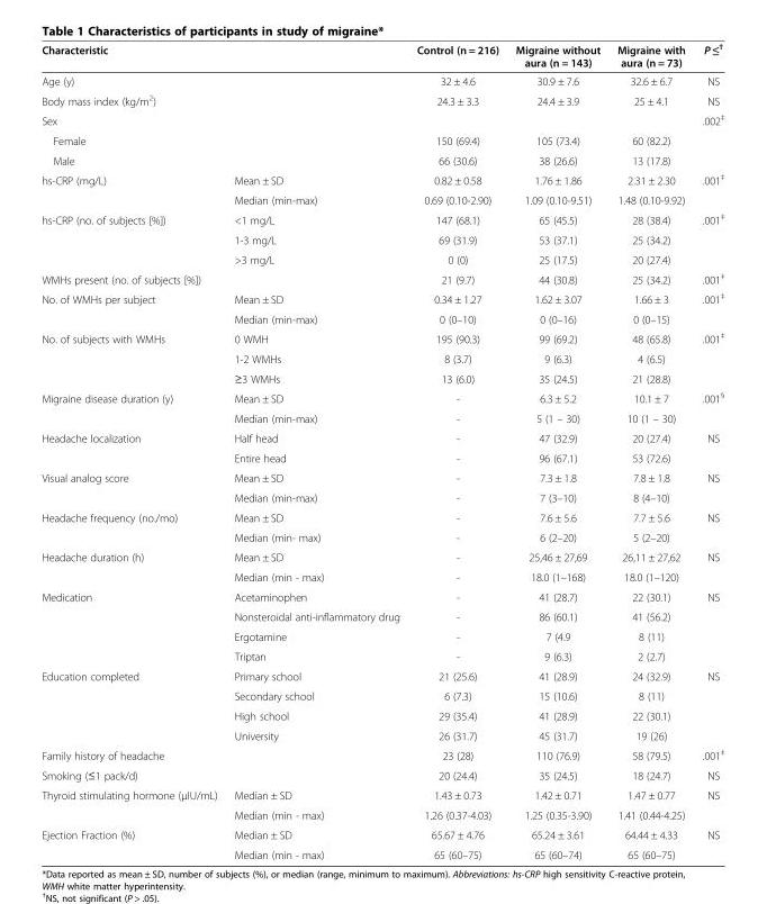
<table><thead><tr><td colspan="2">Characteristic</td><td>Control (n = 216)</td><td>Migraine without aura (n = 143)</td><td>Migraine with aura (n = 73)</td><td>P ≤<sup>†</sup></td></tr></thead><tbody><tr><td colspan="2">Age (y)</td><td>32 ± 4.6</td><td>30.9 ± 7.6</td><td>32.6 ± 6.7</td><td>NS</td></tr><tr><td colspan="2">Body mass index (kg/m<sup>2</sup>)</td><td>24.3 ± 3.3</td><td>24.4 ± 3.9</td><td>25 ± 4.1</td><td>NS</td></tr><tr><td colspan="2">Sex</td><td></td><td></td><td></td><td>.002<sup>‡</sup></td></tr><tr><td>Female</td><td></td><td>150 (69.4)</td><td>105 (73.4)</td><td>60 (82.2)</td><td></td></tr><tr><td>Male</td><td></td><td>66 (30.6)</td><td>38 (26.6)</td><td>13 (17.8)</td><td></td></tr><tr><td rowspan="2">hs-CRP (mg/L)</td><td>Mean ± SD</td><td>0.82 ± 0.58</td><td>1.76 ± 1.86</td><td>2.31 ± 2.30</td><td rowspan="2">.001<sup>‡</sup></td></tr><tr><td>Median (min-max)</td><td>0.69 (0.10-2.90)</td><td>1.09 (0.10-9.51)</td><td>1.48 (0.10-9.92)</td></tr><tr><td rowspan="3">hs-CRP (no. of subjects [%])</td><td>&lt;1 mg/L</td><td>147 (68.1)</td><td>65 (45.5)</td><td>28 (38.4)</td><td rowspan="3">.001<sup>‡</sup></td></tr><tr><td>1-3 mg/L</td><td>69 (31.9)</td><td>53 (37.1)</td><td>25 (34.2)</td></tr><tr><td>&gt;3 mg/L</td><td>0 (0)</td><td>25 (17.5)</td><td>20 (27.4)</td></tr><tr><td colspan="2">WMHs present (no. of subjects [%])</td><td>21 (9.7)</td><td>44 (30.8)</td><td>25 (34.2)</td><td>.001<sup>‡</sup></td></tr><tr><td rowspan="2">No. of WMHs per subject</td><td>Mean ± SD</td><td>0.34 ± 1.27</td><td>1.62 ± 3.07</td><td>1.66 ± 3</td><td rowspan="2">.001<sup>‡</sup></td></tr><tr><td>Median (min-max)</td><td>0 (0–10)</td><td>0 (0–16)</td><td>0 (0–15)</td></tr><tr><td rowspan="3">No. of subjects with WMHs</td><td>0 WMH</td><td>195 (90.3)</td><td>99 (69.2)</td><td>48 (65.8)</td><td rowspan="3">.001<sup>‡</sup></td></tr><tr><td>1-2 WMHs</td><td>8 (3.7)</td><td>9 (6.3)</td><td>4 (6.5)</td></tr><tr><td>≥3 WMHs</td><td>13 (6.0)</td><td>35 (24.5)</td><td>21 (28.8)</td></tr><tr><td rowspan="2">Migraine disease duration (y)</td><td>Mean ± SD</td><td>-</td><td>6.3 ± 5.2</td><td>10.1 ± 7</td><td rowspan="2">.001<sup>§</sup></td></tr><tr><td>Median (min-max)</td><td>-</td><td>5 (1 – 30)</td><td>10 (1 – 30)</td></tr><tr><td rowspan="2">Headache localization</td><td>Half head</td><td>-</td><td>47 (32.9)</td><td>20 (27.4)</td><td rowspan="2">NS</td></tr><tr><td>Entire head</td><td>-</td><td>96 (67.1)</td><td>53 (72.6)</td></tr><tr><td rowspan="2">Visual analog score</td><td>Mean ± SD</td><td>-</td><td>7.3 ± 1.8</td><td>7.8 ± 1.8</td><td rowspan="2">NS</td></tr><tr><td>Median (min-max)</td><td>-</td><td>7 (3–10)</td><td>8 (4–10)</td></tr><tr><td rowspan="2">Headache frequency (no./mo)</td><td>Mean ± SD</td><td>-</td><td>7.6 ± 5.6</td><td>7.7 ± 5.6</td><td rowspan="2">NS</td></tr><tr><td>Median (min- max)</td><td>-</td><td>6 (2–20)</td><td>5 (2–20)</td></tr><tr><td rowspan="2">Headache duration (h)</td><td>Mean ± SD</td><td>-</td><td>25,46 ± 27,69</td><td>26,11 ± 27,62</td><td rowspan="2">NS</td></tr><tr><td>Median (min - max)</td><td>-</td><td>18.0 (1–168)</td><td>18.0 (1–120)</td></tr><tr><td rowspan="4">Medication</td><td>Acetaminophen</td><td>-</td><td>41 (28.7)</td><td>22 (30.1)</td><td rowspan="4">NS</td></tr><tr><td>Nonsteroidal anti-inflammatory drug</td><td>-</td><td>86 (60.1)</td><td>41 (56.2)</td></tr><tr><td>Ergotamine</td><td>-</td><td>7 (4.9</td><td>8 (11)</td></tr><tr><td>Triptan</td><td>-</td><td>9 (6.3)</td><td>2 (2.7)</td></tr><tr><td rowspan="4">Education completed</td><td>Primary school</td><td>21 (25.6)</td><td>41 (28.9)</td><td>24 (32.9)</td><td rowspan="4">NS</td></tr><tr><td>Secondary school</td><td>6 (7.3)</td><td>15 (10.6)</td><td>8 (11)</td></tr><tr><td>High school</td><td>29 (35.4)</td><td>41 (28.9)</td><td>22 (30.1)</td></tr><tr><td>University</td><td>26 (31.7)</td><td>45 (31.7)</td><td>19 (26)</td></tr><tr><td colspan="2">Family history of headache</td><td>23 (28)</td><td>110 (76.9)</td><td>58 (79.5)</td><td>.001<sup>‡</sup></td></tr><tr><td colspan="2">Smoking (≤1 pack/d)</td><td>20 (24.4)</td><td>35 (24.5)</td><td>18 (24.7)</td><td>NS</td></tr><tr><td rowspan="2">Thyroid stimulating hormone (μIU/mL)</td><td>Median ± SD</td><td>1.43 ± 0.73</td><td>1.42 ± 0.71</td><td>1.47 ± 0.77</td><td rowspan="2">NS</td></tr><tr><td>Median (min - max)</td><td>1.26 (0.37-4.03)</td><td>1.25 (0.35-3.90)</td><td>1.41 (0.44-4.25)</td></tr><tr><td rowspan="2">Ejection Fraction (%)</td><td>Median ± SD</td><td>65.67 ± 4.76</td><td>65.24 ± 3.61</td><td>64.44 ± 4.33</td><td rowspan="2">NS</td></tr><tr><td>Median (min - max)</td><td>65 (60–75)</td><td>65 (60–74)</td><td>65 (60–75)</td></tr></tbody></table>